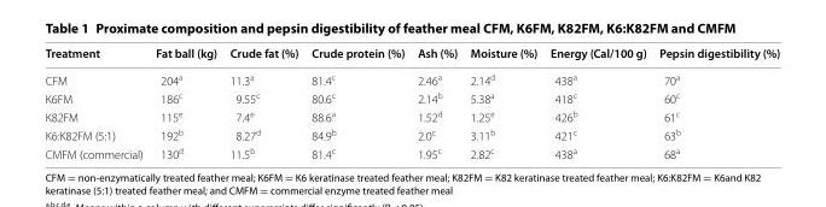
<table><thead><tr><td>Treatment</td><td>Fat ball (kg)</td><td>Crude fat (%)</td><td>Crude protein (%)</td><td>Ash (%)</td><td>Moisture (%)</td><td>Energy (Cal/100 g)</td><td>Pepsin digestibility (%)</td></tr></thead><tbody><tr><td>CFM</td><td>204<sup>a</sup></td><td>11.3<sup>a</sup></td><td>81.4<sup>c</sup></td><td>2.46<sup>a</sup></td><td>2.14<sup>d</sup></td><td>438<sup>a</sup></td><td>70<sup>a</sup></td></tr><tr><td>K6FM</td><td>186<sup>c</sup></td><td>9.55<sup>c</sup></td><td>80.6<sup>c</sup></td><td>2.14<sup>b</sup></td><td>5.38<sup>a</sup></td><td>418<sup>c</sup></td><td>60<sup>c</sup></td></tr><tr><td>K82FM</td><td>115<sup>e</sup></td><td>7.4<sup>e</sup></td><td>88.6<sup>a</sup></td><td>1.52<sup>d</sup></td><td>1.25<sup>e</sup></td><td>426<sup>b</sup></td><td>61<sup>c</sup></td></tr><tr><td>K6:K82FM (5:1)</td><td>192<sup>b</sup></td><td>8.27<sup>d</sup></td><td>84.9<sup>b</sup></td><td>2.0<sup>c</sup></td><td>3.11<sup>b</sup></td><td>421<sup>c</sup></td><td>63<sup>b</sup></td></tr><tr><td>CMFM (commercial)</td><td>130<sup>d</sup></td><td>11.5<sup>b</sup></td><td>81.4<sup>c</sup></td><td>1.95<sup>c</sup></td><td>2.82<sup>c</sup></td><td>438<sup>a</sup></td><td>68<sup>a</sup></td></tr></tbody></table>